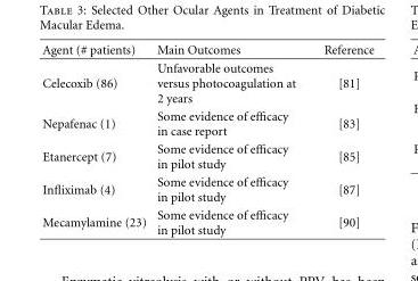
<table><thead><tr><td>Agent (# patients)</td><td>Main Outcomes</td><td>Reference</td></tr></thead><tbody><tr><td>Celecoxib (86)</td><td>Unfavorable outcomes versus photocoagulation at 2 years</td><td>[81]</td></tr><tr><td>Nepafenac (1)</td><td>Some evidence of efficacy in case report</td><td>[83]</td></tr><tr><td>Etanercept (7)</td><td>Some evidence of efficacy in pilot study</td><td>[85]</td></tr><tr><td>Infliximab (4)</td><td>Some evidence of efficacy in pilot study</td><td>[87]</td></tr><tr><td>Mecamylamine (23)</td><td>Some evidence of efficacy in pilot study</td><td>[90]</td></tr></tbody></table>